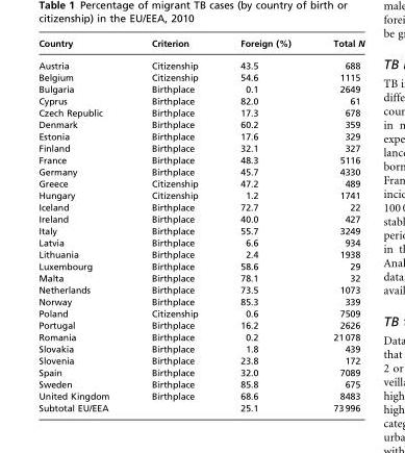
<table><thead><tr><td>Country</td><td>Criterion</td><td>Foreign (%)</td><td>Total N</td></tr></thead><tbody><tr><td>Austria</td><td>Citizenship</td><td>43.5</td><td>688</td></tr><tr><td>Belgium</td><td>Citizenship</td><td>54.6</td><td>1115</td></tr><tr><td>Bulgaria</td><td>Birthplace</td><td>0.1</td><td>2649</td></tr><tr><td>Cyprus</td><td>Birthplace</td><td>82.0</td><td>61</td></tr><tr><td>Czech Republic</td><td>Birthplace</td><td>17.3</td><td>678</td></tr><tr><td>Denmark</td><td>Birthplace</td><td>60.2</td><td>359</td></tr><tr><td>Estonia</td><td>Birthplace</td><td>17.6</td><td>329</td></tr><tr><td>Finland</td><td>Birthplace</td><td>32.1</td><td>327</td></tr><tr><td>France</td><td>Birthplace</td><td>48.3</td><td>5116</td></tr><tr><td>Germany</td><td>Birthplace</td><td>45.7</td><td>4330</td></tr><tr><td>Greece</td><td>Citizenship</td><td>47.2</td><td>489</td></tr><tr><td>Hungary</td><td>Citizenship</td><td>1.2</td><td>1741</td></tr><tr><td>Iceland</td><td>Birthplace</td><td>72.7</td><td>22</td></tr><tr><td>Ireland</td><td>Birthplace</td><td>40.0</td><td>427</td></tr><tr><td>Italy</td><td>Birthplace</td><td>55.7</td><td>3249</td></tr><tr><td>Latvia</td><td>Birthplace</td><td>6.6</td><td>934</td></tr><tr><td>Lithuania</td><td>Birthplace</td><td>2.4</td><td>1938</td></tr><tr><td>Luxembourg</td><td>Birthplace</td><td>58.6</td><td>29</td></tr><tr><td>Malta</td><td>Birthplace</td><td>78.1</td><td>32</td></tr><tr><td>Netherlands</td><td>Birthplace</td><td>73.5</td><td>1073</td></tr><tr><td>Norway</td><td>Birthplace</td><td>85.3</td><td>339</td></tr><tr><td>Poland</td><td>Citizenship</td><td>0.6</td><td>7509</td></tr><tr><td>Portugal</td><td>Birthplace</td><td>16.2</td><td>2626</td></tr><tr><td>Romania</td><td>Birthplace</td><td>0.2</td><td>21 078</td></tr><tr><td>Slovakia</td><td>Birthplace</td><td>1.8</td><td>439</td></tr><tr><td>Slovenia</td><td>Birthplace</td><td>23.8</td><td>172</td></tr><tr><td>Spain</td><td>Birthplace</td><td>32.0</td><td>7089</td></tr><tr><td>Sweden</td><td>Birthplace</td><td>85.8</td><td>675</td></tr><tr><td>United Kingdom</td><td>Birthplace</td><td>68.6</td><td>8483</td></tr><tr><td>Subtotal EU/EEA</td><td></td><td>25.1</td><td>73 996</td></tr></tbody></table>